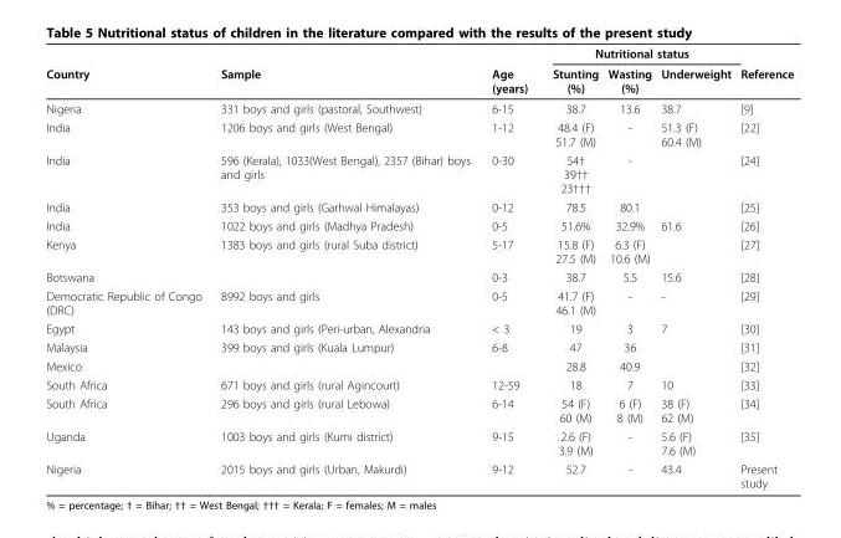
<table><thead><tr><td rowspan="2">Country</td><td rowspan="2">Sample</td><td rowspan="2">Age (years)</td><td colspan="3">Nutritional status</td><td rowspan="2">Reference</td></tr><tr><td>Stunting (%)</td><td>Wasting (%)</td><td>Underweight</td></tr></thead><tbody><tr><td>Nigeria</td><td>331 boys and girls (pastoral, Southwest)</td><td>6-15</td><td>38.7</td><td>13.6</td><td>38.7</td><td>[9]</td></tr><tr><td>India</td><td>1206 boys and girls (West Bengal)</td><td>1-12</td><td>48.4 (F) 51.7 (M)</td><td>-</td><td>51.3 (F) 60.4 (M)</td><td>[22]</td></tr><tr><td>India</td><td>596 (Kerala), 1033(West Bengal), 2357 (Bihar) boys and girls</td><td>0-30</td><td>54† 39†† 23†††</td><td>-</td><td></td><td>[24]</td></tr><tr><td>India</td><td>353 boys and girls (Garhwal Himalayas)</td><td>0-12</td><td>78.5</td><td>80.1</td><td></td><td>[25]</td></tr><tr><td>India</td><td>1022 boys and girls (Madhya Pradesh)</td><td>0-5</td><td>51.6%</td><td>32.9%</td><td>61.6</td><td>[26]</td></tr><tr><td>Kenya</td><td>1383 boys and girls (rural Suba district)</td><td>5-17</td><td>15.8 (F) 27.5 (M)</td><td>6.3 (F) 10.6 (M)</td><td></td><td>[27]</td></tr><tr><td>Botswana</td><td></td><td>0-3</td><td>38.7</td><td>5.5</td><td>15.6</td><td>[28]</td></tr><tr><td>Democratic Republic of Congo (DRC)</td><td>8992 boys and girls</td><td>0-5</td><td>41.7 (F) 46.1 (M)</td><td>-</td><td>-</td><td>[29]</td></tr><tr><td>Egypt</td><td>143 boys and girls (Peri-urban, Alexandria</td><td>&lt; 3</td><td>19</td><td>3</td><td>7</td><td>[30]</td></tr><tr><td>Malaysia</td><td>399 boys and girls (Kuala Lumpur)</td><td>6-8</td><td>47</td><td>36</td><td></td><td>[31]</td></tr><tr><td>Mexico</td><td></td><td></td><td>28.8</td><td>40.9</td><td></td><td>[32]</td></tr><tr><td>South Africa</td><td>671 boys and girls (rural Agincourt)</td><td>12-59</td><td>18</td><td>7</td><td>10</td><td>[33]</td></tr><tr><td>South Africa</td><td>296 boys and girls (rural Lebowa)</td><td>6-14</td><td>54 (F) 60 (M)</td><td>6 (F) 8 (M)</td><td>38 (F) 62 (M)</td><td>[34]</td></tr><tr><td>Uganda</td><td>1003 boys and girls (Kumi district)</td><td>9-15</td><td>2.6 (F) 3.9 (M)</td><td>-</td><td>5.6 (F) 7.6 (M)</td><td>[35]</td></tr><tr><td>Nigeria</td><td>2015 boys and girls (Urban, Makurdi)</td><td>9-12</td><td>52.7</td><td>-</td><td>43.4</td><td>Present study</td></tr></tbody></table>